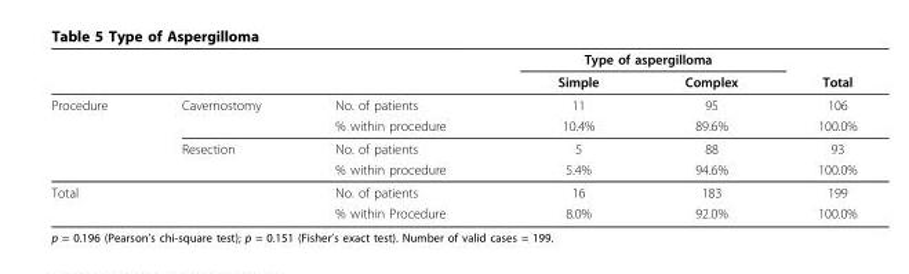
<table><thead><tr><td rowspan="2"></td><td rowspan="2"></td><td rowspan="2"></td><td colspan="2">Type of aspergilloma</td><td rowspan="2">Total</td></tr><tr><td>Simple</td><td>Complex</td></tr></thead><tbody><tr><td rowspan="4">Procedure</td><td>Cavernostomy</td><td>No. of patients</td><td>11</td><td>95</td><td>106</td></tr><tr><td></td><td>% within procedure</td><td>10.4%</td><td>89.6%</td><td>100.0%</td></tr><tr><td>Resection</td><td>No. of patients</td><td>5</td><td>88</td><td>93</td></tr><tr><td></td><td>% within procedure</td><td>5.4%</td><td>94.6%</td><td>100.0%</td></tr><tr><td rowspan="2">Total</td><td></td><td>No. of patients</td><td>16</td><td>183</td><td>199</td></tr><tr><td></td><td>% within Procedure</td><td>8.0%</td><td>92.0%</td><td>100.0%</td></tr></tbody></table>